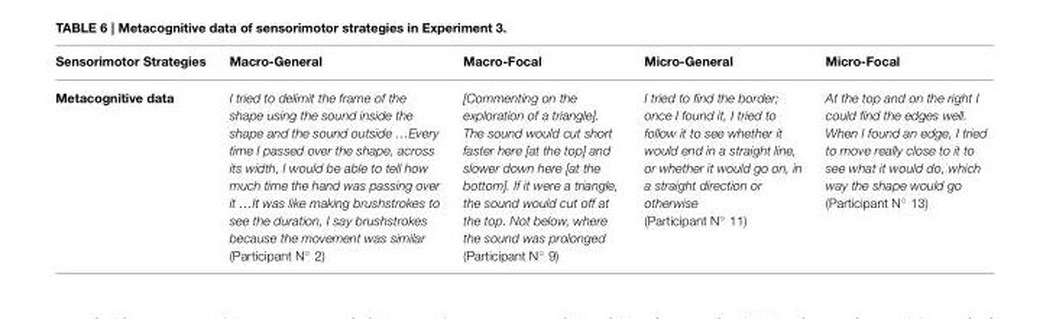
<table><thead><tr><td>Sensorimotor Strategies</td><td>Macro-General</td><td>Macro-Focal</td><td>Micro-General</td><td>Micro-Focal</td></tr></thead><tbody><tr><td>Metacognitive data</td><td>I tried to delimit the frame of the shape using the sound inside the shape and the sound outside …Every time I passed over the shape, across its width, I would be able to tell how much time the hand was passing over it …It was like making brushstrokes to see the duration, I say brushstrokes because the movement was similar (Participant N◦ 2)</td><td>[Commenting on the exploration of a triangle]. The sound would cut short faster here [at the top] and slower down here [at the bottom]. If it were a triangle, the sound would cut off at the top. Not below, where the sound was prolonged (Participant N◦ 9)</td><td>I tried to find the border; once I found it, I tried to follow it to see whether it would end in a straight line, or whether it would go on, in a straight direction or otherwise (Participant N◦ 11)</td><td>At the top and on the right I could find the edges well. When I found an edge, I tried to move really close to it to see what it would do, which way the shape would go (Participant N◦ 13)</td></tr></tbody></table>